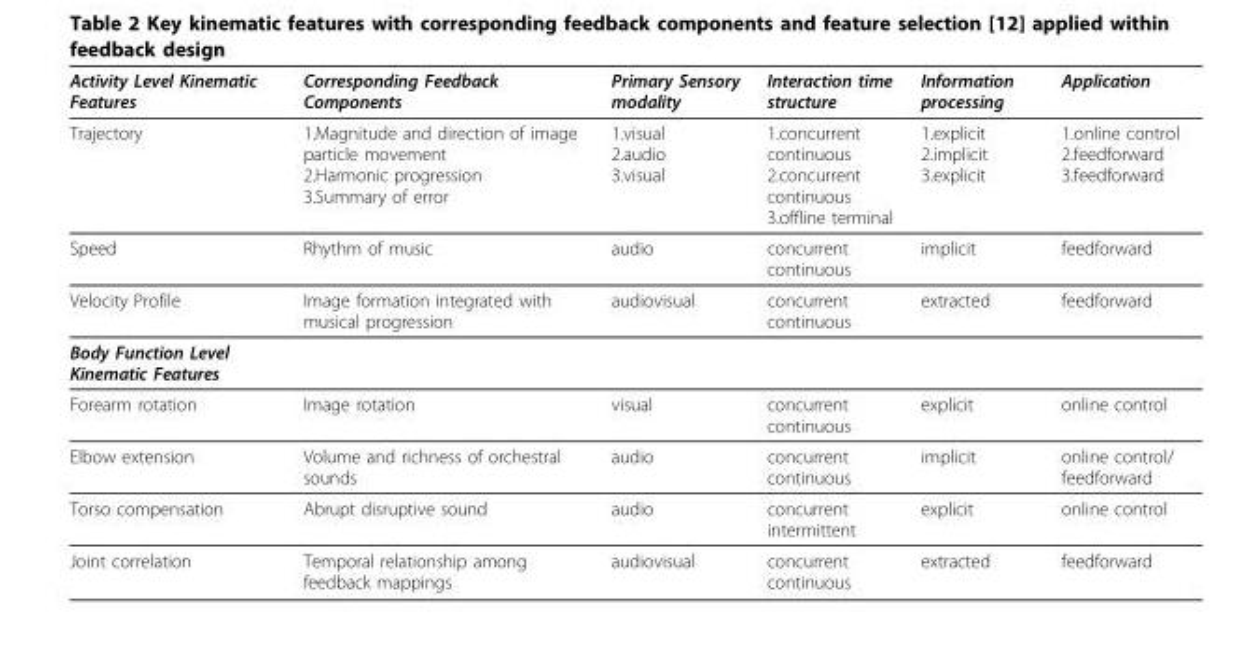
<table><thead><tr><td>Activity Level Kinematic Features</td><td>Corresponding Feedback Components</td><td>Primary Sensory modality</td><td>Interaction time structure</td><td>Information processing</td><td>Application</td></tr></thead><tbody><tr><td>Trajectory</td><td>1.Magnitude and direction of image particle movement 2.Harmonic progression 3.Summary of error</td><td>1.visual 2.audio 3.visual</td><td>1.concurrent continuous 2.concurrent continuous 3.offline terminal</td><td>1.explicit 2.implicit 3.explicit</td><td>1.online control 2.feedforward 3.feedforward</td></tr><tr><td>Speed</td><td>Rhythm of music</td><td>audio</td><td>concurrent continuous</td><td>implicit</td><td>feedforward</td></tr><tr><td>Velocity Profile</td><td>Image formation integrated with musical progression</td><td>audiovisual</td><td>concurrent continuous</td><td>extracted</td><td>feedforward</td></tr><tr><td colspan="6">Body Function Level Kinematic Features</td></tr><tr><td>Forearm rotation</td><td>Image rotation</td><td>visual</td><td>concurrent continuous</td><td>explicit</td><td>online control</td></tr><tr><td>Elbow extension</td><td>Volume and richness of orchestral sounds</td><td>audio</td><td>concurrent continuous</td><td>implicit</td><td>online control/ feedforward</td></tr><tr><td>Torso compensation</td><td>Abrupt disruptive sound</td><td>audio</td><td>concurrent intermittent</td><td>explicit</td><td>online control</td></tr><tr><td>Joint correlation</td><td>Temporal relationship among feedback mappings</td><td>audiovisual</td><td>concurrent continuous</td><td>extracted</td><td>feedforward</td></tr></tbody></table>